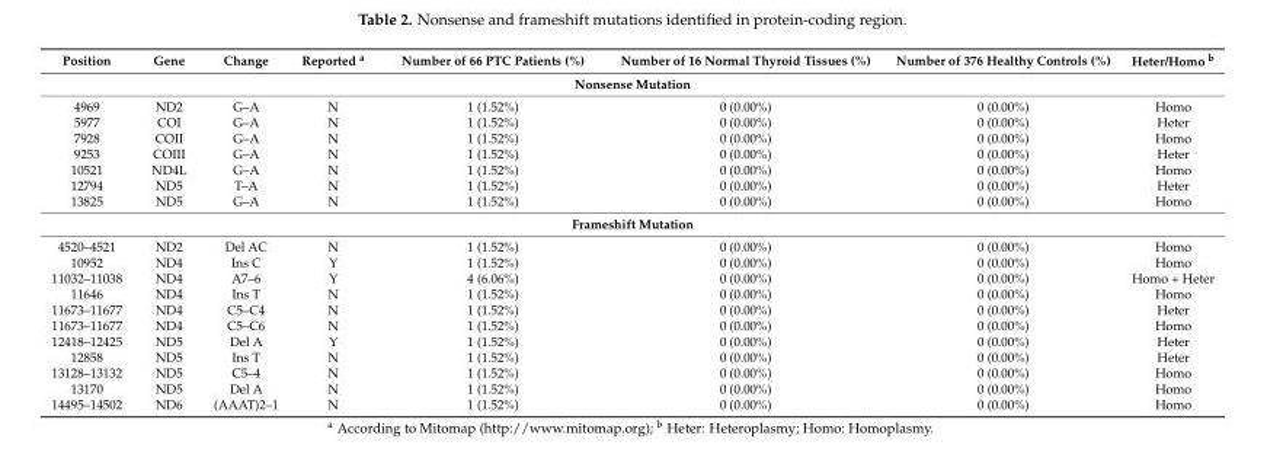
<table><thead><tr><td>Position</td><td>Gene</td><td>Change</td><td>Reported <sup>a</sup></td><td>Number of 66 PTC Patients (%)</td><td>Number of 16 Normal Thyroid Tissues (%)</td><td>Number of 376 Healthy Controls (%)</td><td>Heter/Homo <sup>b</sup></td></tr></thead><tbody><tr><td colspan="8">Nonsense Mutation</td></tr><tr><td>4969</td><td>ND2</td><td>G–A</td><td>N</td><td>1 (1.52%)</td><td>0 (0.00%)</td><td>0 (0.00%)</td><td>Homo</td></tr><tr><td>5977</td><td>COI</td><td>G–A</td><td>N</td><td>1 (1.52%)</td><td>0 (0.00%)</td><td>0 (0.00%)</td><td>Heter</td></tr><tr><td>7928</td><td>COII</td><td>G–A</td><td>N</td><td>1 (1.52%)</td><td>0 (0.00%)</td><td>0 (0.00%)</td><td>Homo</td></tr><tr><td>9253</td><td>COIII</td><td>G–A</td><td>N</td><td>1 (1.52%)</td><td>0 (0.00%)</td><td>0 (0.00%)</td><td>Heter</td></tr><tr><td>10521</td><td>ND4L</td><td>G–A</td><td>N</td><td>1 (1.52%)</td><td>0 (0.00%)</td><td>0 (0.00%)</td><td>Homo</td></tr><tr><td>12794</td><td>ND5</td><td>T–A</td><td>N</td><td>1 (1.52%)</td><td>0 (0.00%)</td><td>0 (0.00%)</td><td>Heter</td></tr><tr><td>13825</td><td>ND5</td><td>G–A</td><td>N</td><td>1 (1.52%)</td><td>0 (0.00%)</td><td>0 (0.00%)</td><td>Homo</td></tr><tr><td colspan="8">Frameshift Mutation</td></tr><tr><td>4520–4521</td><td>ND2</td><td>Del AC</td><td>N</td><td>1 (1.52%)</td><td>0 (0.00%)</td><td>0 (0.00%)</td><td>Homo</td></tr><tr><td>10952</td><td>ND4</td><td>Ins C</td><td>Y</td><td>1 (1.52%)</td><td>0 (0.00%)</td><td>0 (0.00%)</td><td>Homo</td></tr><tr><td>11032–11038</td><td>ND4</td><td>A7–6</td><td>Y</td><td>4 (6.06%)</td><td>0 (0.00%)</td><td>0 (0.00%)</td><td>Homo + Heter</td></tr><tr><td>11646</td><td>ND4</td><td>Ins T</td><td>N</td><td>1 (1.52%)</td><td>0 (0.00%)</td><td>0 (0.00%)</td><td>Homo</td></tr><tr><td>11673–11677</td><td>ND4</td><td>C5–C4</td><td>N</td><td>1 (1.52%)</td><td>0 (0.00%)</td><td>0 (0.00%)</td><td>Heter</td></tr><tr><td>11673–11677</td><td>ND4</td><td>C5–C6</td><td>N</td><td>1 (1.52%)</td><td>0 (0.00%)</td><td>0 (0.00%)</td><td>Homo</td></tr><tr><td>12418–12425</td><td>ND5</td><td>Del A</td><td>Y</td><td>1 (1.52%)</td><td>0 (0.00%)</td><td>0 (0.00%)</td><td>Heter</td></tr><tr><td>12858</td><td>ND5</td><td>Ins T</td><td>N</td><td>1 (1.52%)</td><td>0 (0.00%)</td><td>0 (0.00%)</td><td>Heter</td></tr><tr><td>13128–13132</td><td>ND5</td><td>C5–4</td><td>N</td><td>1 (1.52%)</td><td>0 (0.00%)</td><td>0 (0.00%)</td><td>Homo</td></tr><tr><td>13170</td><td>ND5</td><td>Del A</td><td>N</td><td>1 (1.52%)</td><td>0 (0.00%)</td><td>0 (0.00%)</td><td>Homo</td></tr><tr><td>14495–14502</td><td>ND6</td><td>(AAAT)2–1</td><td>N</td><td>1 (1.52%)</td><td>0 (0.00%)</td><td>0 (0.00%)</td><td>Homo</td></tr></tbody></table>